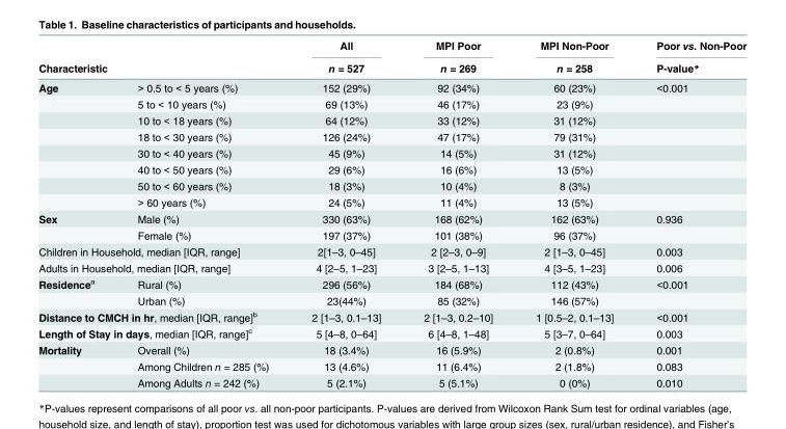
<table><thead><tr><td></td><td></td><td rowspan="2">All n = 527</td><td rowspan="2">MPI Poor n = 269</td><td rowspan="2">MPI Non-Poor n = 258</td><td rowspan="2">Poor vs. Non-Poor P-value*</td></tr><tr><td colspan="2">Characteristic</td></tr></thead><tbody><tr><td rowspan="8">Age</td><td>&gt; 0.5 to &lt; 5 years (%)</td><td>152 (29%)</td><td>92 (34%)</td><td>60 (23%)</td><td>&lt;0.001</td></tr><tr><td>5 to &lt; 10 years (%)</td><td>69 (13%)</td><td>46 (17%)</td><td>23 (9%)</td><td></td></tr><tr><td>10 to &lt; 18 years (%)</td><td>64 (12%)</td><td>33 (12%)</td><td>31 (12%)</td><td></td></tr><tr><td>18 to &lt; 30 years (%)</td><td>126 (24%)</td><td>47 (17%)</td><td>79 (31%)</td><td></td></tr><tr><td>30 to &lt; 40 years (%)</td><td>45 (9%)</td><td>14 (5%)</td><td>31 (12%)</td><td></td></tr><tr><td>40 to &lt; 50 years (%)</td><td>29 (6%)</td><td>16 (6%)</td><td>13 (5%)</td><td></td></tr><tr><td>50 to &lt; 60 years (%)</td><td>18 (3%)</td><td>10 (4%)</td><td>8 (3%)</td><td></td></tr><tr><td>&gt; 60 years (%)</td><td>24 (5%)</td><td>11 (4%)</td><td>13 (5%)</td><td></td></tr><tr><td rowspan="2">Sex</td><td>Male (%)</td><td>330 (63%)</td><td>168 (62%)</td><td>162 (63%)</td><td>0.936</td></tr><tr><td>Female (%)</td><td>197 (37%)</td><td>101 (38%)</td><td>96 (37%)</td><td></td></tr><tr><td colspan="2">Children in Household, median [IQR, range]</td><td>2[1–3, 0–45]</td><td>2 [2–3, 0–9]</td><td>2 [1–3, 0–45]</td><td>0.003</td></tr><tr><td colspan="2">Adults in Household, median [IQR, range]</td><td>4 [2–5, 1–23]</td><td>3 [2–5, 1–13]</td><td>4 [3–5, 1–23]</td><td>0.006</td></tr><tr><td rowspan="2">Residence<sup>a</sup></td><td>Rural (%)</td><td>296 (56%)</td><td>184 (68%)</td><td>112 (43%)</td><td>&lt;0.001</td></tr><tr><td>Urban (%)</td><td>23(44%)</td><td>85 (32%)</td><td>146 (57%)</td><td></td></tr><tr><td colspan="2">Distance to CMCH in hr, median [IQR, range]<sup>b</sup></td><td>2 [1–3, 0.1–13]</td><td>2 [1–3, 0.2–10]</td><td>1 [0.5–2, 0.1–13]</td><td>&lt;0.001</td></tr><tr><td colspan="2">Length of Stay in days, median [IQR, range]<sup>c</sup></td><td>5 [4–8, 0–64]</td><td>6 [4–8, 1–48]</td><td>5 [3–7, 0–64]</td><td>0.003</td></tr><tr><td rowspan="3">Mortality</td><td>Overall (%)</td><td>18 (3.4%)</td><td>16 (5.9%)</td><td>2 (0.8%)</td><td>0.001</td></tr><tr><td>Among Children n = 285 (%)</td><td>13 (4.6%)</td><td>11 (6.4%)</td><td>2 (1.8%)</td><td>0.083</td></tr><tr><td>Among Adults n = 242 (%)</td><td>5 (2.1%)</td><td>5 (5.1%)</td><td>0 (0%)</td><td>0.010</td></tr></tbody></table>